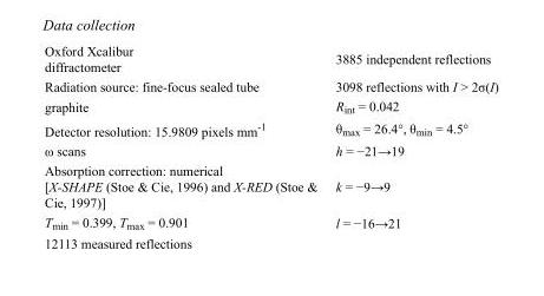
<table><tbody><tr><td>Oxford Xcalibur diffractometer</td><td>3885 independent reflections</td></tr><tr><td>Radiation source: fine-focus sealed tube</td><td>3098 reflections with I &gt; 2σ(I)</td></tr><tr><td>graphite</td><td>R<sub>int</sub> = 0.042</td></tr><tr><td>Detector resolution: 15.9809 pixels mm<sup>-1</sup></td><td>θ<sub>max</sub> = 26.4°, θ<sub>min</sub> = 4.5°</td></tr><tr><td>ω scans</td><td>h = −21→19</td></tr><tr><td>Absorption correction: numerical [X-SHAPE (Stoe &amp; Cie, 1996) and X-RED (Stoe &amp; Cie, 1997)]</td><td>k = −9→9</td></tr><tr><td>T<sub>min</sub> = 0.399, T<sub>max</sub> = 0.901</td><td>l = −16→21</td></tr><tr><td>12113 measured reflections</td><td></td></tr></tbody></table>